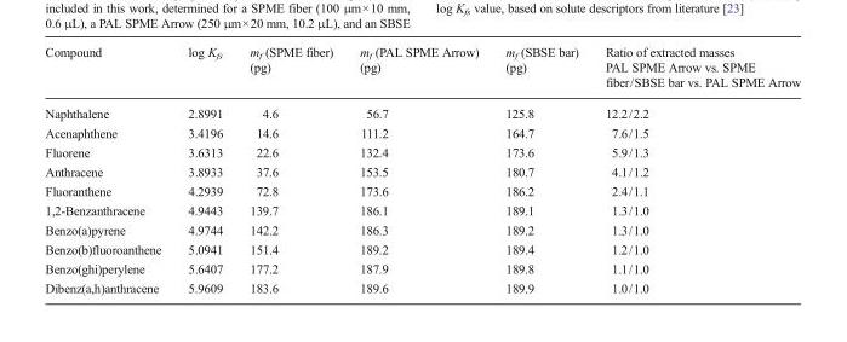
<table><thead><tr><td>Compound</td><td>log K<sub>fs</sub></td><td>m<sub>f</sub> (SPME fiber) (pg)</td><td>m<sub>f</sub> (PAL SPME Arrow) (pg)</td><td>m<sub>f</sub> (SBSE bar) (pg)</td><td>Ratio of extracted masses PAL SPME Arrow vs. SPME fiber/SBSE bar vs. PAL SPME Arrow</td></tr></thead><tbody><tr><td>Naphthalene</td><td>2.8991</td><td>4.6</td><td>56.7</td><td>125.8</td><td>12.2/2.2</td></tr><tr><td>Acenaphthene</td><td>3.4196</td><td>14.6</td><td>111.2</td><td>164.7</td><td>7.6/1.5</td></tr><tr><td>Fluorene</td><td>3.6313</td><td>22.6</td><td>132.4</td><td>173.6</td><td>5.9/1.3</td></tr><tr><td>Anthracene</td><td>3.8933</td><td>37.6</td><td>153.5</td><td>180.7</td><td>4.1/1.2</td></tr><tr><td>Fluoranthene</td><td>4.2939</td><td>72.8</td><td>173.6</td><td>186.2</td><td>2.4/1.1</td></tr><tr><td>1,2-Benzanthracene</td><td>4.9443</td><td>139.7</td><td>186.1</td><td>189.1</td><td>1.3/1.0</td></tr><tr><td>Benzo(a)pyrene</td><td>4.9744</td><td>142.2</td><td>186.3</td><td>189.2</td><td>1.3/1.0</td></tr><tr><td>Benzo(b)fluoroanthene</td><td>5.0941</td><td>151.4</td><td>189.2</td><td>189.4</td><td>1.2/1.0</td></tr><tr><td>Benzo(ghi)perylene</td><td>5.6407</td><td>177.2</td><td>187.9</td><td>189.8</td><td>1.1/1.0</td></tr><tr><td>Dibenz(a,h)anthracene</td><td>5.9609</td><td>183.6</td><td>189.6</td><td>189.9</td><td>1.0/1.0</td></tr></tbody></table>